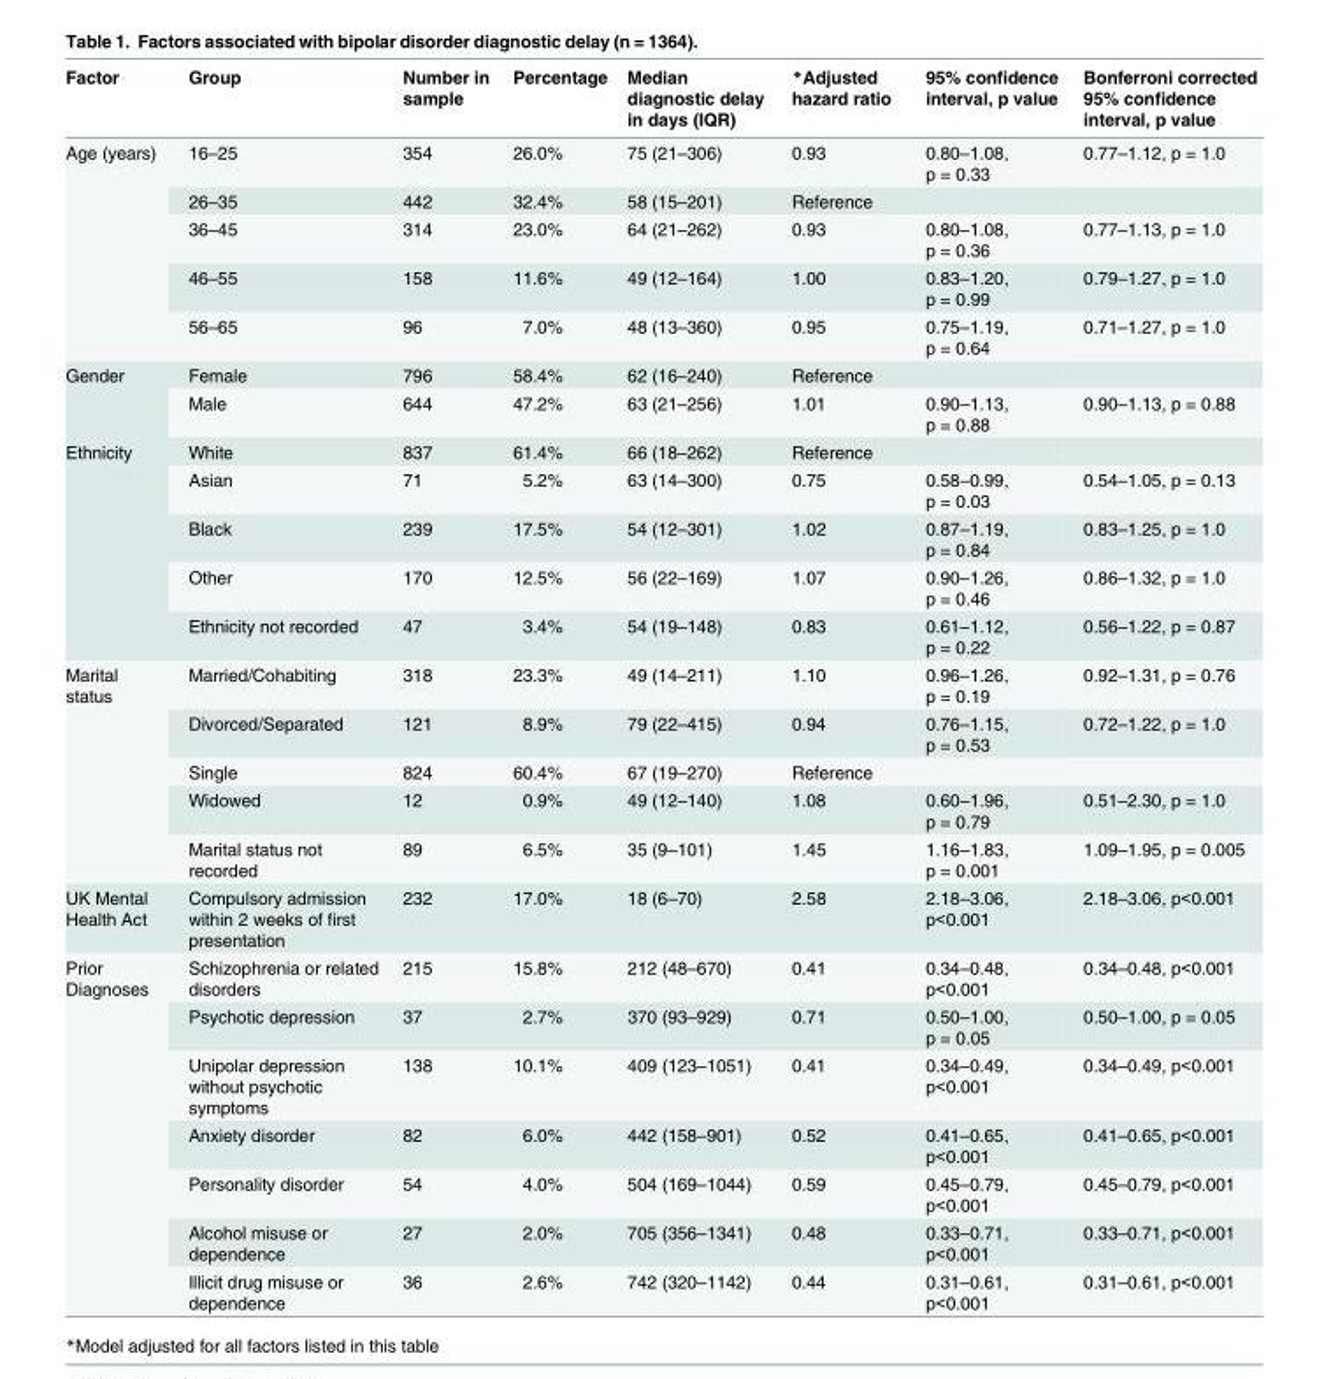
<table><thead><tr><td>Factor</td><td>Group</td><td>Number in sample</td><td>Percentage</td><td>Median diagnostic delay in days (IQR)</td><td>*Adjusted hazard ratio</td><td>95% confidence interval, p value</td><td>Bonferroni corrected 95% confidence interval, p value</td></tr></thead><tbody><tr><td rowspan="5">Age (years)</td><td>16–25</td><td>354</td><td>26.0%</td><td>75 (21–306)</td><td>0.93</td><td>0.80–1.08, p = 0.33</td><td>0.77–1.12, p = 1.0</td></tr><tr><td>26–35</td><td>442</td><td>32.4%</td><td>58 (15–201)</td><td>Reference</td><td></td><td></td></tr><tr><td>36–45</td><td>314</td><td>23.0%</td><td>64 (21–262)</td><td>0.93</td><td>0.80–1.08, p = 0.36</td><td>0.77–1.13, p = 1.0</td></tr><tr><td>46–55</td><td>158</td><td>11.6%</td><td>49 (12–164)</td><td>1.00</td><td>0.83–1.20, p = 0.99</td><td>0.79–1.27, p = 1.0</td></tr><tr><td>56–65</td><td>96</td><td>7.0%</td><td>48 (13–360)</td><td>0.95</td><td>0.75–1.19, p = 0.64</td><td>0.71–1.27, p = 1.0</td></tr><tr><td rowspan="2">Gender</td><td>Female</td><td>796</td><td>58.4%</td><td>62 (16–240)</td><td>Reference</td><td></td><td></td></tr><tr><td>Male</td><td>644</td><td>47.2%</td><td>63 (21–256)</td><td>1.01</td><td>0.90–1.13, p = 0.88</td><td>0.90–1.13, p = 0.88</td></tr><tr><td rowspan="5">Ethnicity</td><td>White</td><td>837</td><td>61.4%</td><td>66 (18–262)</td><td>Reference</td><td></td><td></td></tr><tr><td>Asian</td><td>71</td><td>5.2%</td><td>63 (14–300)</td><td>0.75</td><td>0.58–0.99, p = 0.03</td><td>0.54–1.05, p = 0.13</td></tr><tr><td>Black</td><td>239</td><td>17.5%</td><td>54 (12–301)</td><td>1.02</td><td>0.87–1.19, p = 0.84</td><td>0.83–1.25, p = 1.0</td></tr><tr><td>Other</td><td>170</td><td>12.5%</td><td>56 (22–169)</td><td>1.07</td><td>0.90–1.26, p = 0.46</td><td>0.86–1.32, p = 1.0</td></tr><tr><td>Ethnicity not recorded</td><td>47</td><td>3.4%</td><td>54 (19–148)</td><td>0.83</td><td>0.61–1.12, p = 0.22</td><td>0.56–1.22, p = 0.87</td></tr><tr><td rowspan="5">Marital status</td><td>Married/Cohabiting</td><td>318</td><td>23.3%</td><td>49 (14–211)</td><td>1.10</td><td>0.96–1.26, p = 0.19</td><td>0.92–1.31, p = 0.76</td></tr><tr><td>Divorced/Separated</td><td>121</td><td>8.9%</td><td>79 (22–415)</td><td>0.94</td><td>0.76–1.15, p = 0.53</td><td>0.72–1.22, p = 1.0</td></tr><tr><td>Single</td><td>824</td><td>60.4%</td><td>67 (19–270)</td><td>Reference</td><td></td><td></td></tr><tr><td>Widowed</td><td>12</td><td>0.9%</td><td>49 (12–140)</td><td>1.08</td><td>0.60–1.96, p = 0.79</td><td>0.51–2.30, p = 1.0</td></tr><tr><td>Marital status not recorded</td><td>89</td><td>6.5%</td><td>35 (9–101)</td><td>1.45</td><td>1.16–1.83, p = 0.001</td><td>1.09–1.95, p = 0.005</td></tr><tr><td>UK Mental Health Act</td><td>Compulsory admission within 2 weeks of first presentation</td><td>232</td><td>17.0%</td><td>18 (6–70)</td><td>2.58</td><td>2.18–3.06, p&lt;0.001</td><td>2.18–3.06, p&lt;0.001</td></tr><tr><td rowspan="7">Prior Diagnoses</td><td>Schizophrenia or related disorders</td><td>215</td><td>15.8%</td><td>212 (48–670)</td><td>0.41</td><td>0.34–0.48, p&lt;0.001</td><td>0.34–0.48, p&lt;0.001</td></tr><tr><td>Psychotic depression</td><td>37</td><td>2.7%</td><td>370 (93–929)</td><td>0.71</td><td>0.50–1.00, p = 0.05</td><td>0.50–1.00, p = 0.05</td></tr><tr><td>Unipolar depression without psychotic symptoms</td><td>138</td><td>10.1%</td><td>409 (123–1051)</td><td>0.41</td><td>0.34–0.49, p&lt;0.001</td><td>0.34–0.49, p&lt;0.001</td></tr><tr><td>Anxiety disorder</td><td>82</td><td>6.0%</td><td>442 (158–901)</td><td>0.52</td><td>0.41–0.65, p&lt;0.001</td><td>0.41–0.65, p&lt;0.001</td></tr><tr><td>Personality disorder</td><td>54</td><td>4.0%</td><td>504 (169–1044)</td><td>0.59</td><td>0.45–0.79, p&lt;0.001</td><td>0.45–0.79, p&lt;0.001</td></tr><tr><td>Alcohol misuse or dependence</td><td>27</td><td>2.0%</td><td>705 (356–1341)</td><td>0.48</td><td>0.33–0.71, p&lt;0.001</td><td>0.33–0.71, p&lt;0.001</td></tr><tr><td>Illicit drug misuse or dependence</td><td>36</td><td>2.6%</td><td>742 (320–1142)</td><td>0.44</td><td>0.31–0.61, p&lt;0.001</td><td>0.31–0.61, p&lt;0.001</td></tr></tbody></table>